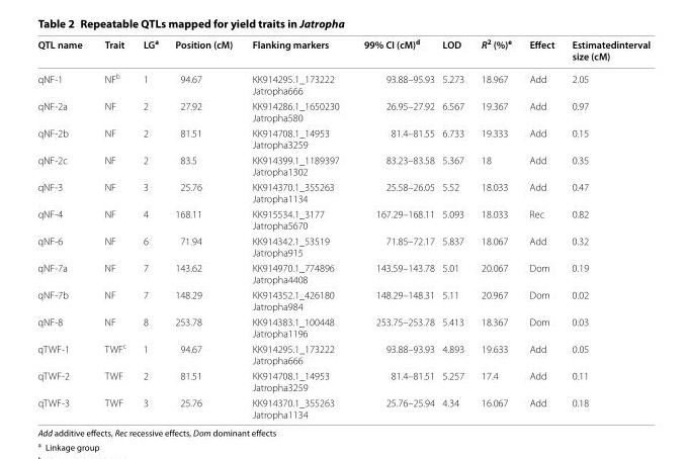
<table><thead><tr><td>QTL name</td><td>Trait</td><td>LG<sup>a</sup></td><td>Position (cM)</td><td>Flanking markers</td><td>99% CI (cM)<sup>d</sup></td><td>LOD</td><td>R<sup>2</sup> (%)<sup>e</sup></td><td>Effect</td><td>Estimatedinterval size (cM)</td></tr></thead><tbody><tr><td>qNF-1</td><td>NF<sup>b</sup></td><td>1</td><td>94.67</td><td>KK914295.1_173222 Jatropha666</td><td>93.88–95.93</td><td>5.273</td><td>18.967</td><td>Add</td><td>2.05</td></tr><tr><td>qNF-2a</td><td>NF</td><td>2</td><td>27.92</td><td>KK914286.1_1650230 Jatropha580</td><td>26.95–27.92</td><td>6.567</td><td>19.367</td><td>Add</td><td>0.97</td></tr><tr><td>qNF-2b</td><td>NF</td><td>2</td><td>81.51</td><td>KK914708.1_14953 Jatropha3259</td><td>81.4–81.55</td><td>6.733</td><td>19.333</td><td>Add</td><td>0.15</td></tr><tr><td>qNF-2c</td><td>NF</td><td>2</td><td>83.5</td><td>KK914399.1_1189397 Jatropha1302</td><td>83.23–83.58</td><td>5.367</td><td>18</td><td>Add</td><td>0.35</td></tr><tr><td>qNF-3</td><td>NF</td><td>3</td><td>25.76</td><td>KK914370.1_355263 Jatropha1134</td><td>25.58–26.05</td><td>5.52</td><td>18.033</td><td>Add</td><td>0.47</td></tr><tr><td>qNF-4</td><td>NF</td><td>4</td><td>168.11</td><td>KK915534.1_3177 Jatropha5670</td><td>167.29–168.11</td><td>5.093</td><td>18.033</td><td>Rec</td><td>0.82</td></tr><tr><td>qNF-6</td><td>NF</td><td>6</td><td>71.94</td><td>KK914342.1_53519 Jatropha915</td><td>71.85–72.17</td><td>5.837</td><td>18.067</td><td>Add</td><td>0.32</td></tr><tr><td>qNF-7a</td><td>NF</td><td>7</td><td>143.62</td><td>KK914970.1_774896 Jatropha4408</td><td>143.59–143.78</td><td>5.01</td><td>20.067</td><td>Dom</td><td>0.19</td></tr><tr><td>qNF-7b</td><td>NF</td><td>7</td><td>148.29</td><td>KK914352.1_426180 Jatropha984</td><td>148.29–148.31</td><td>5.11</td><td>20.967</td><td>Dom</td><td>0.02</td></tr><tr><td>qNF-8</td><td>NF</td><td>8</td><td>253.78</td><td>KK914383.1_100448 Jatropha1196</td><td>253.75–253.78</td><td>5.413</td><td>18.367</td><td>Dom</td><td>0.03</td></tr><tr><td>qTWF-1</td><td>TWF<sup>c</sup></td><td>1</td><td>94.67</td><td>KK914295.1_173222 Jatropha666</td><td>93.88–93.93</td><td>4.893</td><td>19.633</td><td>Add</td><td>0.05</td></tr><tr><td>qTWF-2</td><td>TWF</td><td>2</td><td>81.51</td><td>KK914708.1_14953 Jatropha3259</td><td>81.4–81.51</td><td>5.257</td><td>17.4</td><td>Add</td><td>0.11</td></tr><tr><td>qTWF-3</td><td>TWF</td><td>3</td><td>25.76</td><td>KK914370.1_355263 Jatropha1134</td><td>25.76–25.94</td><td>4.34</td><td>16.067</td><td>Add</td><td>0.18</td></tr></tbody></table>